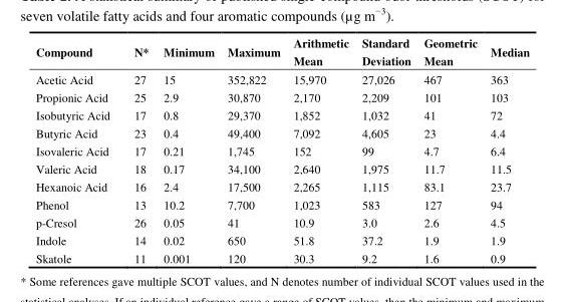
<table><thead><tr><td>Compound</td><td>N*</td><td>Minimum</td><td>Maximum</td><td>Arithmetic Mean</td><td>Standard Deviation</td><td>Geometric Mean</td><td>Median</td></tr></thead><tbody><tr><td>Acetic Acid</td><td>27</td><td>15</td><td>352,822</td><td>15,970</td><td>27,026</td><td>467</td><td>363</td></tr><tr><td>Propionic Acid</td><td>25</td><td>2.9</td><td>30,870</td><td>2,170</td><td>2,209</td><td>101</td><td>103</td></tr><tr><td>Isobutyric Acid</td><td>17</td><td>0.8</td><td>29,370</td><td>1,852</td><td>1,032</td><td>41</td><td>72</td></tr><tr><td>Butyric Acid</td><td>23</td><td>0.4</td><td>49,400</td><td>7,092</td><td>4,605</td><td>23</td><td>4.4</td></tr><tr><td>Isovaleric Acid</td><td>17</td><td>0.21</td><td>1,745</td><td>152</td><td>99</td><td>4.7</td><td>6.4</td></tr><tr><td>Valeric Acid</td><td>18</td><td>0.17</td><td>34,100</td><td>2,640</td><td>1,975</td><td>11.7</td><td>11.5</td></tr><tr><td>Hexanoic Acid</td><td>16</td><td>2.4</td><td>17,500</td><td>2,265</td><td>1,115</td><td>83.1</td><td>23.7</td></tr><tr><td>Phenol</td><td>13</td><td>10.2</td><td>7,700</td><td>1,023</td><td>583</td><td>127</td><td>94</td></tr><tr><td>p-Cresol</td><td>26</td><td>0.05</td><td>41</td><td>10.9</td><td>3.0</td><td>2.6</td><td>4.5</td></tr><tr><td>Indole</td><td>14</td><td>0.02</td><td>650</td><td>51.8</td><td>37.2</td><td>1.9</td><td>1.9</td></tr><tr><td>Skatole</td><td>11</td><td>0.001</td><td>120</td><td>30.3</td><td>9.2</td><td>1.6</td><td>0.9</td></tr></tbody></table>